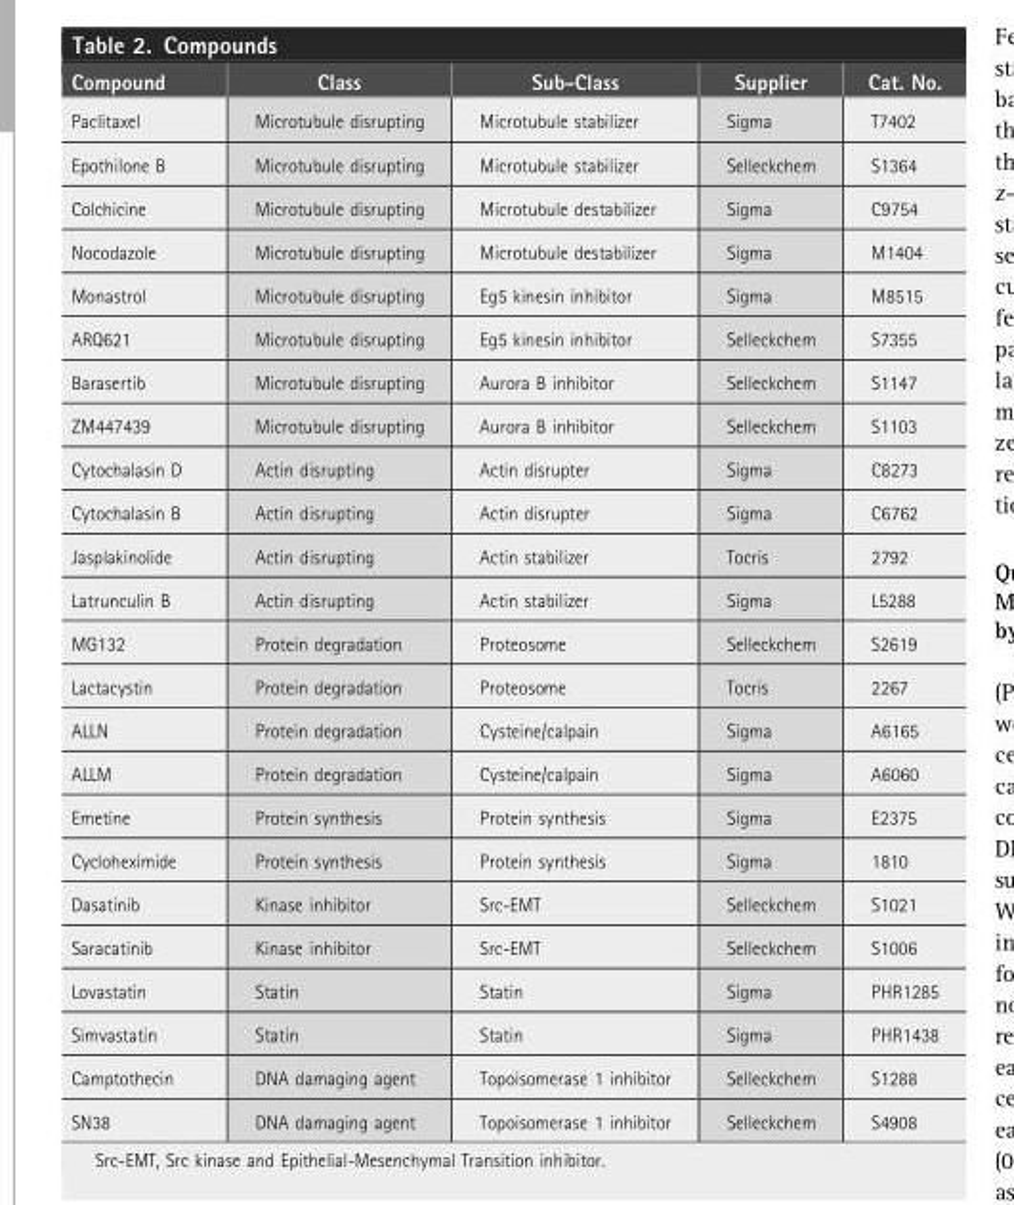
<table><thead><tr><td>Compound</td><td>Class</td><td>Sub-Class</td><td>Supplier</td><td>Cat. No.</td></tr></thead><tbody><tr><td>Paclitaxel</td><td>Microtubule disrupting</td><td>Microtubule stabilizer</td><td>Sigma</td><td>T7402</td></tr><tr><td>Epothilone B</td><td>Microtubule disrupting</td><td>Microtubule stabilizer</td><td>Selleckchem</td><td>S1364</td></tr><tr><td>Colchicine</td><td>Microtubule disrupting</td><td>Microtubule destabilizer</td><td>Sigma</td><td>C9754</td></tr><tr><td>Nocodazole</td><td>Microtubule disrupting</td><td>Microtubule destabilizer</td><td>Sigma</td><td>M1404</td></tr><tr><td>Monastrol</td><td>Microtubule disrupting</td><td>Eg5 kinesin inhibitor</td><td>Sigma</td><td>M8515</td></tr><tr><td>ARQ621</td><td>Microtubule disrupting</td><td>Eg5 kinesin inhibitor</td><td>Selleckchem</td><td>S7355</td></tr><tr><td>Barasertib</td><td>Microtubule disrupting</td><td>Aurora B inhibitor</td><td>Selleckchem</td><td>S1147</td></tr><tr><td>ZM447439</td><td>Microtubule disrupting</td><td>Aurora B inhibitor</td><td>Selleckchem</td><td>S1103</td></tr><tr><td>Cytochalasin D</td><td>Actin disrupting</td><td>Actin disrupter</td><td>Sigma</td><td>C8273</td></tr><tr><td>Cytochalasin B</td><td>Actin disrupting</td><td>Actin disrupter</td><td>Sigma</td><td>C6762</td></tr><tr><td>Jasplakinolide</td><td>Actin disrupting</td><td>Actin stabilizer</td><td>Tocris</td><td>2792</td></tr><tr><td>Latrunculin B</td><td>Actin disrupting</td><td>Actin stabilizer</td><td>Sigma</td><td>L5288</td></tr><tr><td>MG132</td><td>Protein degradation</td><td>Proteosome</td><td>Selleckchem</td><td>S2619</td></tr><tr><td>Lactacystin</td><td>Protein degradation</td><td>Proteosome</td><td>Tocris</td><td>2267</td></tr><tr><td>ALLN</td><td>Protein degradation</td><td>Cysteine/calpain</td><td>Sigma</td><td>A6165</td></tr><tr><td>ALLM</td><td>Protein degradation</td><td>Cysteine/calpain</td><td>Sigma</td><td>A6060</td></tr><tr><td>Emetine</td><td>Protein synthesis</td><td>Protein synthesis</td><td>Sigma</td><td>E2375</td></tr><tr><td>Cycloheximide</td><td>Protein synthesis</td><td>Protein synthesis</td><td>Sigma</td><td>1810</td></tr><tr><td>Dasatinib</td><td>Kinase inhibitor</td><td>Src-EMT</td><td>Selleckchem</td><td>S1021</td></tr><tr><td>Saracatinib</td><td>Kinase inhibitor</td><td>Src-EMT</td><td>Selleckchem</td><td>S1006</td></tr><tr><td>Lovastatin</td><td>Statin</td><td>Statin</td><td>Sigma</td><td>PHR1285</td></tr><tr><td>Simvastatin</td><td>Statin</td><td>Statin</td><td>Sigma</td><td>PHR1438</td></tr><tr><td>Camptothecin</td><td>DNA damaging agent</td><td>Topoisomerase 1 inhibitor</td><td>Selleckchem</td><td>S1288</td></tr><tr><td>SN38</td><td>DNA damaging agent</td><td>Topoisomerase 1 inhibitor</td><td>Selleckchem</td><td>S4908</td></tr></tbody></table>